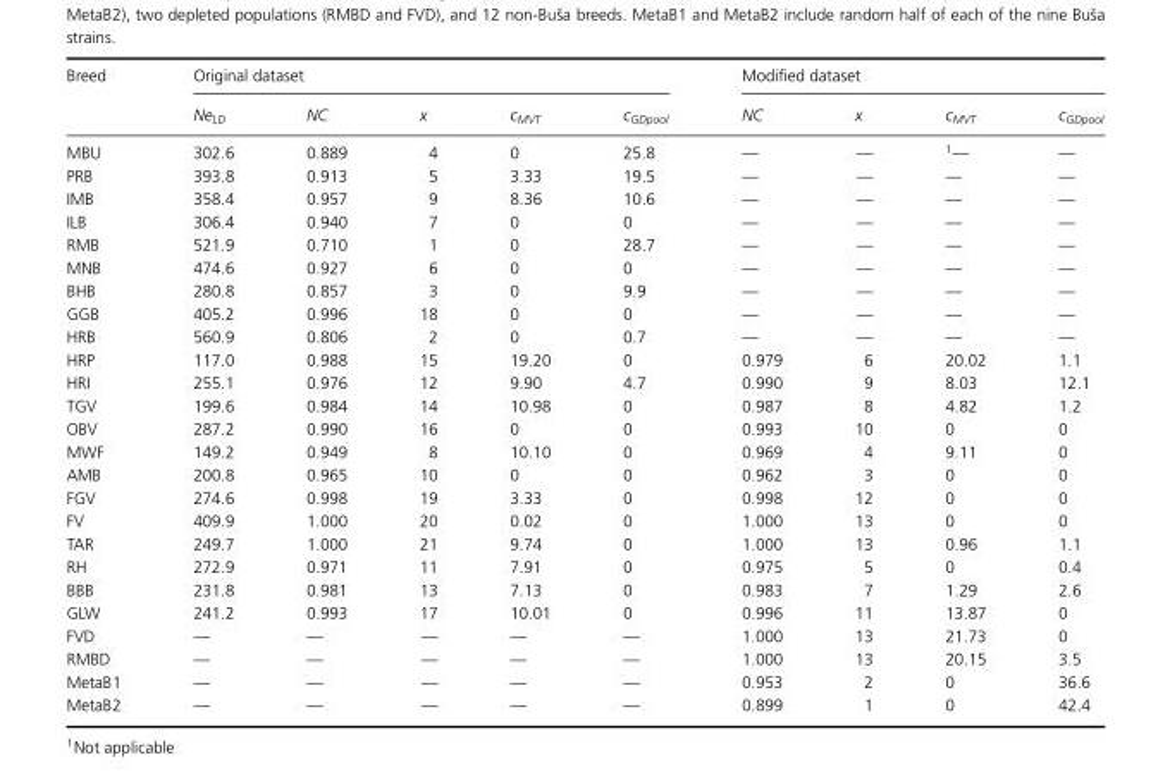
<table><thead><tr><td rowspan="2">Breed</td><td colspan="5">Original dataset</td><td colspan="4">Modified dataset</td></tr><tr><td>Ne<sub>LD</sub></td><td>NC</td><td>x</td><td>c<sub>MVT</sub></td><td>c<sub>GDpool</sub></td><td>NC</td><td>x</td><td>c<sub>MVT</sub></td><td>c<sub>GDpool</sub></td></tr></thead><tbody><tr><td>MBU</td><td>302.6</td><td>0.889</td><td>4</td><td>0</td><td>25.8</td><td>—</td><td>—</td><td>1—</td><td>—</td></tr><tr><td>PRB</td><td>393.8</td><td>0.913</td><td>5</td><td>3.33</td><td>19.5</td><td>—</td><td>—</td><td>—</td><td>—</td></tr><tr><td>IMB</td><td>358.4</td><td>0.957</td><td>9</td><td>8.36</td><td>10.6</td><td>—</td><td>—</td><td>—</td><td>—</td></tr><tr><td>ILB</td><td>306.4</td><td>0.940</td><td>7</td><td>0</td><td>0</td><td>—</td><td>—</td><td>—</td><td>—</td></tr><tr><td>RMB</td><td>521.9</td><td>0.710</td><td>1</td><td>0</td><td>28.7</td><td>—</td><td>—</td><td>—</td><td>—</td></tr><tr><td>MNB</td><td>474.6</td><td>0.927</td><td>6</td><td>0</td><td>0</td><td>—</td><td>—</td><td>—</td><td>—</td></tr><tr><td>BHB</td><td>280.8</td><td>0.857</td><td>3</td><td>0</td><td>9.9</td><td>—</td><td>—</td><td>—</td><td>—</td></tr><tr><td>GGB</td><td>405.2</td><td>0.996</td><td>18</td><td>0</td><td>0</td><td>—</td><td>—</td><td>—</td><td>—</td></tr><tr><td>HRB</td><td>560.9</td><td>0.806</td><td>2</td><td>0</td><td>0.7</td><td>—</td><td>—</td><td>—</td><td>—</td></tr><tr><td>HRP</td><td>117.0</td><td>0.988</td><td>15</td><td>19.20</td><td>0</td><td>0.979</td><td>6</td><td>20.02</td><td>1.1</td></tr><tr><td>HRI</td><td>255.1</td><td>0.976</td><td>12</td><td>9.90</td><td>4.7</td><td>0.990</td><td>9</td><td>8.03</td><td>12.1</td></tr><tr><td>TGV</td><td>199.6</td><td>0.984</td><td>14</td><td>10.98</td><td>0</td><td>0.987</td><td>8</td><td>4.82</td><td>1.2</td></tr><tr><td>OBV</td><td>287.2</td><td>0.990</td><td>16</td><td>0</td><td>0</td><td>0.993</td><td>10</td><td>0</td><td>0</td></tr><tr><td>MWF</td><td>149.2</td><td>0.949</td><td>8</td><td>10.10</td><td>0</td><td>0.969</td><td>4</td><td>9.11</td><td>0</td></tr><tr><td>AMB</td><td>200.8</td><td>0.965</td><td>10</td><td>0</td><td>0</td><td>0.962</td><td>3</td><td>0</td><td>0</td></tr><tr><td>FGV</td><td>274.6</td><td>0.998</td><td>19</td><td>3.33</td><td>0</td><td>0.998</td><td>12</td><td>0</td><td>0</td></tr><tr><td>FV</td><td>409.9</td><td>1.000</td><td>20</td><td>0.02</td><td>0</td><td>1.000</td><td>13</td><td>0</td><td>0</td></tr><tr><td>TAR</td><td>249.7</td><td>1.000</td><td>21</td><td>9.74</td><td>0</td><td>1.000</td><td>13</td><td>0.96</td><td>1.1</td></tr><tr><td>RH</td><td>272.9</td><td>0.971</td><td>11</td><td>7.91</td><td>0</td><td>0.975</td><td>5</td><td>0</td><td>0.4</td></tr><tr><td>BBB</td><td>231.8</td><td>0.981</td><td>13</td><td>7.13</td><td>0</td><td>0.983</td><td>7</td><td>1.29</td><td>2.6</td></tr><tr><td>GLW</td><td>241.2</td><td>0.993</td><td>17</td><td>10.01</td><td>0</td><td>0.996</td><td>11</td><td>13.87</td><td>0</td></tr><tr><td>FVD</td><td>—</td><td>—</td><td>—</td><td>—</td><td>—</td><td>1.000</td><td>13</td><td>21.73</td><td>0</td></tr><tr><td>RMBD</td><td>—</td><td>—</td><td>—</td><td>—</td><td>—</td><td>1.000</td><td>13</td><td>20.15</td><td>3.5</td></tr><tr><td>MetaB1</td><td>—</td><td>—</td><td>—</td><td>—</td><td>—</td><td>0.953</td><td>2</td><td>0</td><td>36.6</td></tr><tr><td>MetaB2</td><td>—</td><td>—</td><td>—</td><td>—</td><td>—</td><td>0.899</td><td>1</td><td>0</td><td>42.4</td></tr></tbody></table>